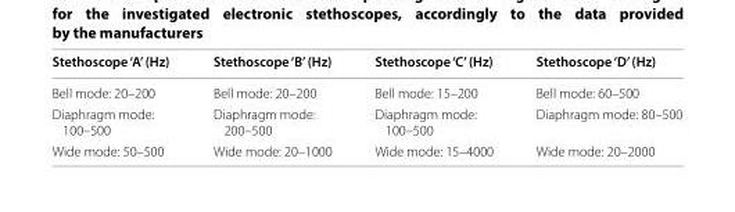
<table><thead><tr><td>Stethoscope ‘A’ (Hz)</td><td>Stethoscope ‘B’ (Hz)</td><td>Stethoscope ‘C’ (Hz)</td><td>Stethoscope ‘D’ (Hz)</td></tr></thead><tbody><tr><td>Bell mode: 20–200</td><td>Bell mode: 20–200</td><td>Bell mode: 15–200</td><td>Bell mode: 60–500</td></tr><tr><td>Diaphragm mode: 100–500</td><td>Diaphragm mode: 200–500</td><td>Diaphragm mode: 100–500</td><td>Diaphragm mode: 80–500</td></tr><tr><td>Wide mode: 50–500</td><td>Wide mode: 20–1000</td><td>Wide mode: 15–4000</td><td>Wide mode: 20–2000</td></tr></tbody></table>